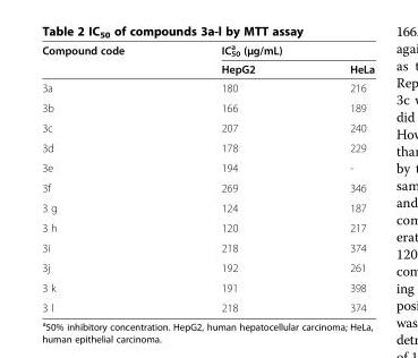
<table><thead><tr><td rowspan="2">Compound code</td><td colspan="2">IC<sub>50</sub> <sup>a</sup> (μg/mL)</td></tr><tr><td>HepG2</td><td>HeLa</td></tr></thead><tbody><tr><td>3a</td><td>180</td><td>216</td></tr><tr><td>3b</td><td>166</td><td>189</td></tr><tr><td>3c</td><td>207</td><td>240</td></tr><tr><td>3d</td><td>178</td><td>229</td></tr><tr><td>3e</td><td>194</td><td>-</td></tr><tr><td>3f</td><td>269</td><td>346</td></tr><tr><td>3 g</td><td>124</td><td>187</td></tr><tr><td>3 h</td><td>120</td><td>217</td></tr><tr><td>3i</td><td>218</td><td>374</td></tr><tr><td>3j</td><td>192</td><td>261</td></tr><tr><td>3 k</td><td>191</td><td>398</td></tr><tr><td>3 l</td><td>218</td><td>374</td></tr></tbody></table>